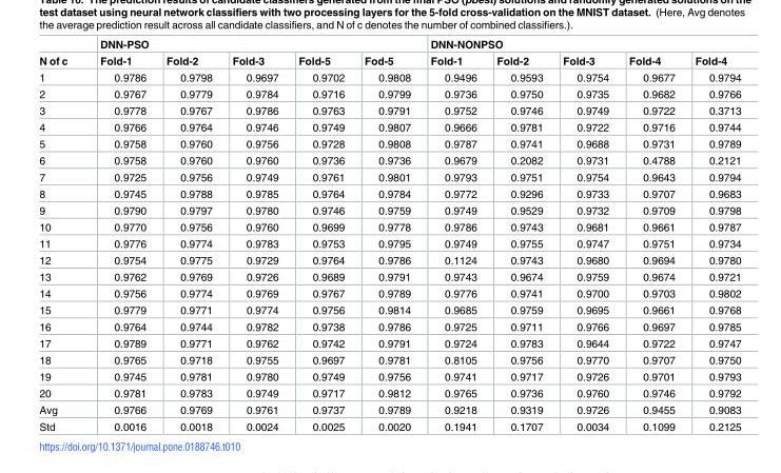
<table><thead><tr><td rowspan="2">N of c</td><td colspan="5">DNN-PSO</td><td colspan="5">DNN-NONPSO</td></tr><tr><td>Fold-1</td><td>Fold-2</td><td>Fold-3</td><td>Fold-5</td><td>Fod-5</td><td>Fold-1</td><td>Fold-2</td><td>Fold-3</td><td>Fold-4</td><td>Fold-4</td></tr></thead><tbody><tr><td>1</td><td>0.9786</td><td>0.9798</td><td>0.9697</td><td>0.9702</td><td>0.9808</td><td>0.9496</td><td>0.9593</td><td>0.9754</td><td>0.9677</td><td>0.9794</td></tr><tr><td>2</td><td>0.9767</td><td>0.9779</td><td>0.9784</td><td>0.9716</td><td>0.9799</td><td>0.9736</td><td>0.9750</td><td>0.9735</td><td>0.9682</td><td>0.9766</td></tr><tr><td>3</td><td>0.9778</td><td>0.9767</td><td>0.9786</td><td>0.9763</td><td>0.9791</td><td>0.9752</td><td>0.9746</td><td>0.9749</td><td>0.9722</td><td>0.3713</td></tr><tr><td>4</td><td>0.9766</td><td>0.9764</td><td>0.9746</td><td>0.9749</td><td>0.9807</td><td>0.9666</td><td>0.9781</td><td>0.9722</td><td>0.9716</td><td>0.9744</td></tr><tr><td>5</td><td>0.9758</td><td>0.9760</td><td>0.9756</td><td>0.9728</td><td>0.9808</td><td>0.9787</td><td>0.9741</td><td>0.9688</td><td>0.9731</td><td>0.9789</td></tr><tr><td>6</td><td>0.9758</td><td>0.9760</td><td>0.9760</td><td>0.9736</td><td>0.9736</td><td>0.9679</td><td>0.2082</td><td>0.9731</td><td>0.4788</td><td>0.2121</td></tr><tr><td>7</td><td>0.9725</td><td>0.9756</td><td>0.9749</td><td>0.9761</td><td>0.9801</td><td>0.9793</td><td>0.9751</td><td>0.9754</td><td>0.9643</td><td>0.9794</td></tr><tr><td>8</td><td>0.9745</td><td>0.9788</td><td>0.9785</td><td>0.9764</td><td>0.9784</td><td>0.9772</td><td>0.9296</td><td>0.9733</td><td>0.9707</td><td>0.9683</td></tr><tr><td>9</td><td>0.9790</td><td>0.9797</td><td>0.9780</td><td>0.9746</td><td>0.9759</td><td>0.9749</td><td>0.9529</td><td>0.9732</td><td>0.9709</td><td>0.9798</td></tr><tr><td>10</td><td>0.9770</td><td>0.9756</td><td>0.9760</td><td>0.9699</td><td>0.9778</td><td>0.9786</td><td>0.9743</td><td>0.9681</td><td>0.9661</td><td>0.9787</td></tr><tr><td>11</td><td>0.9776</td><td>0.9774</td><td>0.9783</td><td>0.9753</td><td>0.9795</td><td>0.9749</td><td>0.9755</td><td>0.9747</td><td>0.9751</td><td>0.9734</td></tr><tr><td>12</td><td>0.9754</td><td>0.9775</td><td>0.9729</td><td>0.9764</td><td>0.9786</td><td>0.1124</td><td>0.9743</td><td>0.9680</td><td>0.9694</td><td>0.9780</td></tr><tr><td>13</td><td>0.9762</td><td>0.9769</td><td>0.9726</td><td>0.9689</td><td>0.9791</td><td>0.9743</td><td>0.9674</td><td>0.9759</td><td>0.9674</td><td>0.9721</td></tr><tr><td>14</td><td>0.9756</td><td>0.9774</td><td>0.9769</td><td>0.9767</td><td>0.9789</td><td>0.9776</td><td>0.9741</td><td>0.9700</td><td>0.9703</td><td>0.9802</td></tr><tr><td>15</td><td>0.9779</td><td>0.9771</td><td>0.9774</td><td>0.9756</td><td>0.9814</td><td>0.9685</td><td>0.9759</td><td>0.9695</td><td>0.9661</td><td>0.9768</td></tr><tr><td>16</td><td>0.9764</td><td>0.9744</td><td>0.9782</td><td>0.9738</td><td>0.9786</td><td>0.9725</td><td>0.9711</td><td>0.9766</td><td>0.9697</td><td>0.9785</td></tr><tr><td>17</td><td>0.9789</td><td>0.9771</td><td>0.9762</td><td>0.9742</td><td>0.9791</td><td>0.9724</td><td>0.9783</td><td>0.9644</td><td>0.9722</td><td>0.9747</td></tr><tr><td>18</td><td>0.9765</td><td>0.9718</td><td>0.9755</td><td>0.9697</td><td>0.9781</td><td>0.8105</td><td>0.9756</td><td>0.9770</td><td>0.9707</td><td>0.9750</td></tr><tr><td>19</td><td>0.9745</td><td>0.9781</td><td>0.9780</td><td>0.9749</td><td>0.9756</td><td>0.9741</td><td>0.9717</td><td>0.9726</td><td>0.9701</td><td>0.9793</td></tr><tr><td>20</td><td>0.9781</td><td>0.9783</td><td>0.9749</td><td>0.9717</td><td>0.9812</td><td>0.9765</td><td>0.9736</td><td>0.9760</td><td>0.9746</td><td>0.9792</td></tr><tr><td>Avg</td><td>0.9766</td><td>0.9769</td><td>0.9761</td><td>0.9737</td><td>0.9789</td><td>0.9218</td><td>0.9319</td><td>0.9726</td><td>0.9455</td><td>0.9083</td></tr><tr><td>Std</td><td>0.0016</td><td>0.0018</td><td>0.0024</td><td>0.0025</td><td>0.0020</td><td>0.1941</td><td>0.1707</td><td>0.0034</td><td>0.1099</td><td>0.2125</td></tr></tbody></table>